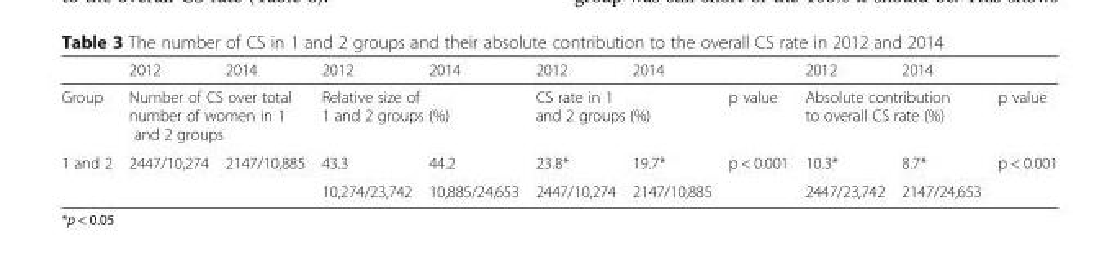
<table><thead><tr><td></td><td>2012</td><td>2014</td><td>2012</td><td>2014</td><td>2012</td><td>2014</td><td></td><td>2012</td><td>2014</td><td></td></tr></thead><tbody><tr><td>Group</td><td colspan="2">Number of CS over total number of women in 1 and 2 groups</td><td colspan="2">Relative size of 1 and 2 groups (%)</td><td colspan="2">CS rate in 1 and 2 groups (%)</td><td>p value</td><td colspan="2">Absolute contribution to overall CS rate (%)</td><td>p value</td></tr><tr><td rowspan="2">1 and 2</td><td rowspan="2">2447/10,274</td><td rowspan="2">2147/10,885</td><td>43.3</td><td>44.2</td><td>23.8*</td><td>19.7*</td><td rowspan="2">p &lt; 0.001</td><td>10.3*</td><td>8.7*</td><td rowspan="2">p &lt; 0.001</td></tr><tr><td>10,274/23,742</td><td>10,885/24,653</td><td>2447/10,274</td><td>2147/10,885</td><td>2447/23,742</td><td>2147/24,653</td></tr></tbody></table>